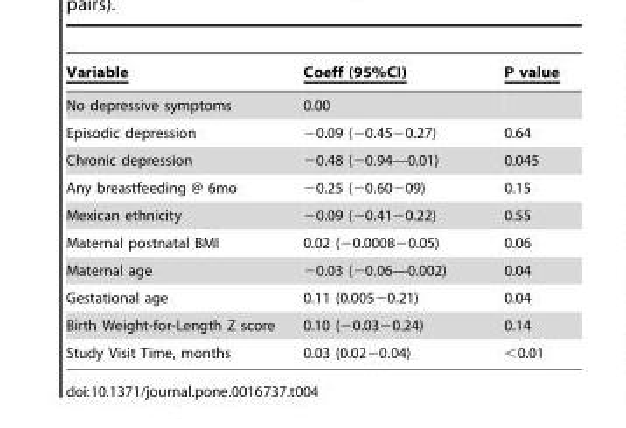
<table><thead><tr><td>Variable</td><td>Coeff (95%CI)</td><td>P value</td></tr></thead><tbody><tr><td>No depressive symptoms</td><td>0.00</td><td></td></tr><tr><td>Episodic depression</td><td>−0.09 (−0.45−0.27)</td><td>0.64</td></tr><tr><td>Chronic depression</td><td>−0.48 (−0.94—0.01)</td><td>0.045</td></tr><tr><td>Any breastfeeding @ 6mo</td><td>−0.25 (−0.60−09)</td><td>0.15</td></tr><tr><td>Mexican ethnicity</td><td>−0.09 (−0.41−0.22)</td><td>0.55</td></tr><tr><td>Maternal postnatal BMI</td><td>0.02 (−0.0008−0.05)</td><td>0.06</td></tr><tr><td>Maternal age</td><td>−0.03 (−0.06—0.002)</td><td>0.04</td></tr><tr><td>Gestational age</td><td>0.11 (0.005−0.21)</td><td>0.04</td></tr><tr><td>Birth Weight-for-Length Z score</td><td>0.10 (−0.03−0.24)</td><td>0.14</td></tr><tr><td>Study Visit Time, months</td><td>0.03 (0.02−0.04)</td><td>&lt;0.01</td></tr></tbody></table>